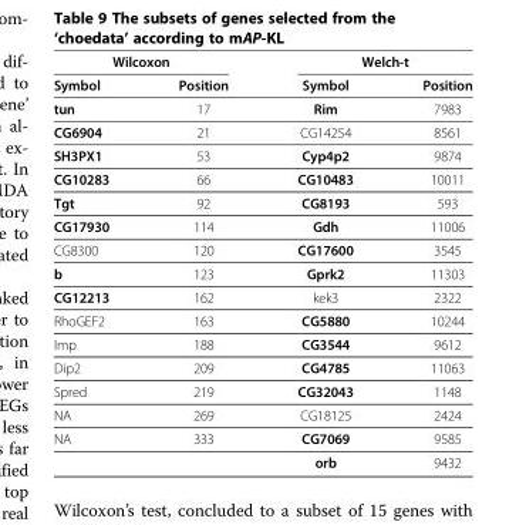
<table><thead><tr><td colspan="2">Wilcoxon</td><td colspan="2">Welch-t</td></tr><tr><td>Symbol</td><td>Position</td><td>Symbol</td><td>Position</td></tr></thead><tbody><tr><td>tun</td><td>17</td><td>Rim</td><td>7983</td></tr><tr><td>CG6904</td><td>21</td><td>CG14254</td><td>8561</td></tr><tr><td>SH3PX1</td><td>53</td><td>Cyp4p2</td><td>9874</td></tr><tr><td>CG10283</td><td>66</td><td>CG10483</td><td>10011</td></tr><tr><td>Tgt</td><td>92</td><td>CG8193</td><td>593</td></tr><tr><td>CG17930</td><td>114</td><td>Gdh</td><td>11006</td></tr><tr><td>CG8300</td><td>120</td><td>CG17600</td><td>3545</td></tr><tr><td>b</td><td>123</td><td>Gprk2</td><td>11303</td></tr><tr><td>CG12213</td><td>162</td><td>kek3</td><td>2322</td></tr><tr><td>RhoGEF2</td><td>163</td><td>CG5880</td><td>10244</td></tr><tr><td>Imp</td><td>188</td><td>CG3544</td><td>9612</td></tr><tr><td>Dip2</td><td>209</td><td>CG4785</td><td>11063</td></tr><tr><td>Spred</td><td>219</td><td>CG32043</td><td>1148</td></tr><tr><td>NA</td><td>269</td><td>CG18125</td><td>2424</td></tr><tr><td rowspan="2">NA</td><td>333</td><td>CG7069</td><td>9585</td></tr><tr><td></td><td>orb</td><td>9432</td></tr></tbody></table>